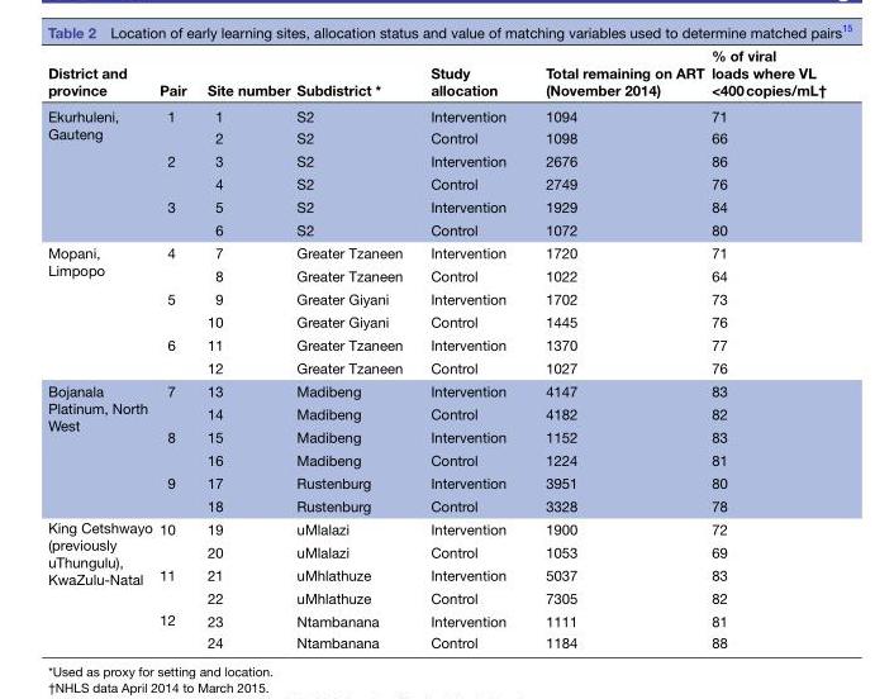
<table><thead><tr><td>District and province</td><td>Pair</td><td>Site number</td><td>Subdistrict *</td><td>Study allocation</td><td>Total remaining on ART (November 2014)</td><td>% of viral loads where VL &lt;400 copies/mL†</td></tr></thead><tbody><tr><td rowspan="6">Ekurhuleni, Gauteng</td><td rowspan="2">1</td><td>1</td><td>S2</td><td>Intervention</td><td>1094</td><td>71</td></tr><tr><td>2</td><td>S2</td><td>Control</td><td>1098</td><td>66</td></tr><tr><td rowspan="2">2</td><td>3</td><td>S2</td><td>Intervention</td><td>2676</td><td>86</td></tr><tr><td>4</td><td>S2</td><td>Control</td><td>2749</td><td>76</td></tr><tr><td rowspan="2">3</td><td>5</td><td>S2</td><td>Intervention</td><td>1929</td><td>84</td></tr><tr><td>6</td><td>S2</td><td>Control</td><td>1072</td><td>80</td></tr><tr><td rowspan="6">Mopani, Limpopo</td><td rowspan="2">4</td><td>7</td><td>Greater Tzaneen</td><td>Intervention</td><td>1720</td><td>71</td></tr><tr><td>8</td><td>Greater Tzaneen</td><td>Control</td><td>1022</td><td>64</td></tr><tr><td rowspan="2">5</td><td>9</td><td>Greater Giyani</td><td>Intervention</td><td>1702</td><td>73</td></tr><tr><td>10</td><td>Greater Giyani</td><td>Control</td><td>1445</td><td>76</td></tr><tr><td rowspan="2">6</td><td>11</td><td>Greater Tzaneen</td><td>Intervention</td><td>1370</td><td>77</td></tr><tr><td>12</td><td>Greater Tzaneen</td><td>Control</td><td>1027</td><td>76</td></tr><tr><td rowspan="6">Bojanala Platinum, North West</td><td rowspan="2">7</td><td>13</td><td>Madibeng</td><td>Intervention</td><td>4147</td><td>83</td></tr><tr><td>14</td><td>Madibeng</td><td>Control</td><td>4182</td><td>82</td></tr><tr><td rowspan="2">8</td><td>15</td><td>Madibeng</td><td>Intervention</td><td>1152</td><td>83</td></tr><tr><td>16</td><td>Madibeng</td><td>Control</td><td>1224</td><td>81</td></tr><tr><td rowspan="2">9</td><td>17</td><td>Rustenburg</td><td>Intervention</td><td>3951</td><td>80</td></tr><tr><td>18</td><td>Rustenburg</td><td>Control</td><td>3328</td><td>78</td></tr><tr><td rowspan="6">King Cetshwayo (previously uThungulu), KwaZulu-Natal</td><td rowspan="2">10</td><td>19</td><td>uMlalazi</td><td>Intervention</td><td>1900</td><td>72</td></tr><tr><td>20</td><td>uMlalazi</td><td>Control</td><td>1053</td><td>69</td></tr><tr><td rowspan="2">11</td><td>21</td><td>uMhlathuze</td><td>Intervention</td><td>5037</td><td>83</td></tr><tr><td>22</td><td>uMhlathuze</td><td>Control</td><td>7305</td><td>82</td></tr><tr><td rowspan="2">12</td><td>23</td><td>Ntambanana</td><td>Intervention</td><td>1111</td><td>81</td></tr><tr><td>24</td><td>Ntambanana</td><td>Control</td><td>1184</td><td>88</td></tr></tbody></table>